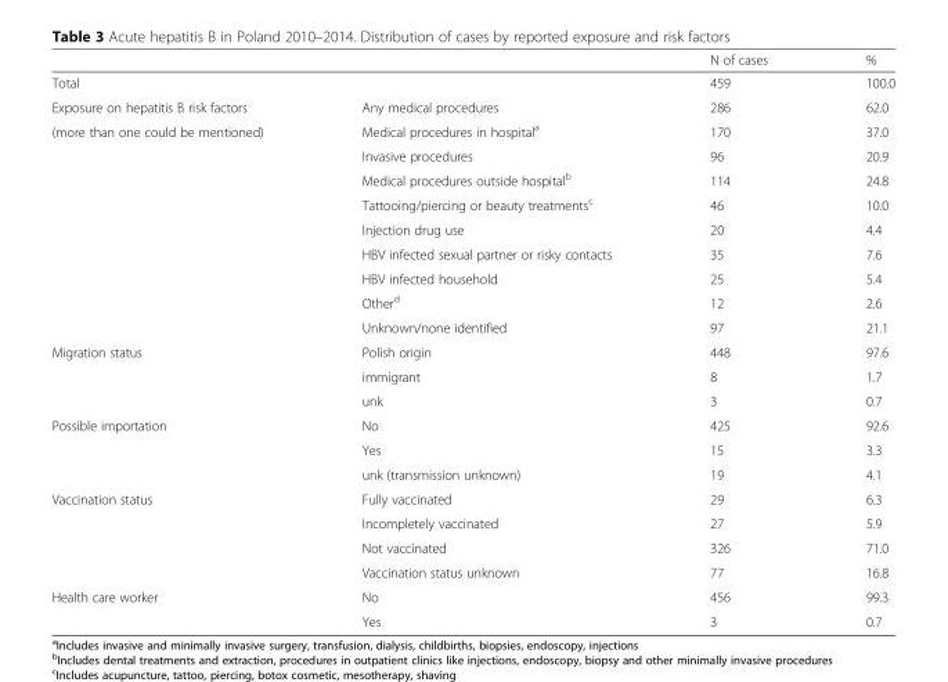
<table><thead><tr><td></td><td></td><td>N of cases</td><td>%</td></tr></thead><tbody><tr><td>Total</td><td></td><td>459</td><td>100.0</td></tr><tr><td>Exposure on hepatitis B risk factors</td><td>Any medical procedures</td><td>286</td><td>62.0</td></tr><tr><td rowspan="9">(more than one could be mentioned)</td><td>Medical procedures in hospital<sup>a</sup></td><td>170</td><td>37.0</td></tr><tr><td>Invasive procedures</td><td>96</td><td>20.9</td></tr><tr><td>Medical procedures outside hospital<sup>b</sup></td><td>114</td><td>24.8</td></tr><tr><td>Tattooing/piercing or beauty treatments<sup>c</sup></td><td>46</td><td>10.0</td></tr><tr><td>Injection drug use</td><td>20</td><td>4.4</td></tr><tr><td>HBV infected sexual partner or risky contacts</td><td>35</td><td>7.6</td></tr><tr><td>HBV infected household</td><td>25</td><td>5.4</td></tr><tr><td>Other<sup>d</sup></td><td>12</td><td>2.6</td></tr><tr><td>Unknown/none identified</td><td>97</td><td>21.1</td></tr><tr><td rowspan="3">Migration status</td><td>Polish origin</td><td>448</td><td>97.6</td></tr><tr><td>immigrant</td><td>8</td><td>1.7</td></tr><tr><td>unk</td><td>3</td><td>0.7</td></tr><tr><td rowspan="3">Possible importation</td><td>No</td><td>425</td><td>92.6</td></tr><tr><td>Yes</td><td>15</td><td>3.3</td></tr><tr><td>unk (transmission unknown)</td><td>19</td><td>4.1</td></tr><tr><td rowspan="4">Vaccination status</td><td>Fully vaccinated</td><td>29</td><td>6.3</td></tr><tr><td>Incompletely vaccinated</td><td>27</td><td>5.9</td></tr><tr><td>Not vaccinated</td><td>326</td><td>71.0</td></tr><tr><td>Vaccination status unknown</td><td>77</td><td>16.8</td></tr><tr><td rowspan="2">Health care worker</td><td>No</td><td>456</td><td>99.3</td></tr><tr><td>Yes</td><td>3</td><td>0.7</td></tr></tbody></table>